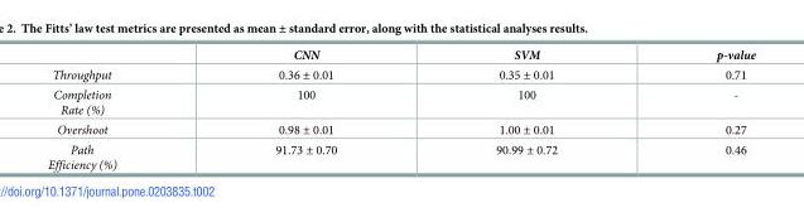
<table><thead><tr><td></td><td>CNN</td><td>SVM</td><td>p-value</td></tr></thead><tbody><tr><td>Throughput</td><td>0.36 ± 0.01</td><td>0.35 ± 0.01</td><td>0.71</td></tr><tr><td>Completion Rate (%)</td><td>100</td><td>100</td><td>-</td></tr><tr><td>Overshoot</td><td>0.98 ± 0.01</td><td>1.00 ± 0.01</td><td>0.27</td></tr><tr><td>Path Efficiency (%)</td><td>91.73 ± 0.70</td><td>90.99 ± 0.72</td><td>0.46</td></tr></tbody></table>